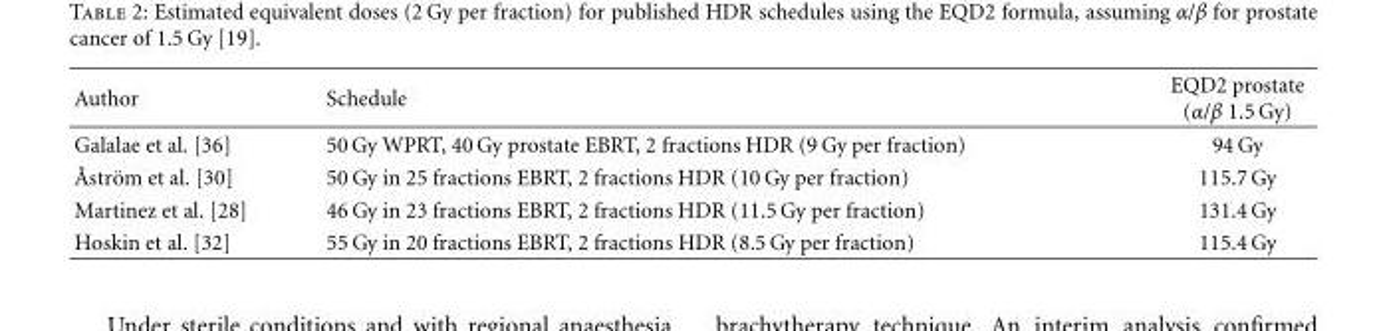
<table><thead><tr><td>Author</td><td>Schedule</td><td>EQD2 prostate (α/β 1.5 Gy)</td></tr></thead><tbody><tr><td>Galalae et al. [36]</td><td>50 Gy WPRT, 40 Gy prostate EBRT, 2 fractions HDR (9 Gy per fraction)</td><td>94 Gy</td></tr><tr><td>˚Astr¨om et al. [30]</td><td>50 Gy in 25 fractions EBRT, 2 fractions HDR (10 Gy per fraction)</td><td>115.7 Gy</td></tr><tr><td>Martinez et al. [28]</td><td>46 Gy in 23 fractions EBRT, 2 fractions HDR (11.5 Gy per fraction)</td><td>131.4 Gy</td></tr><tr><td>Hoskin et al. [32]</td><td>55 Gy in 20 fractions EBRT, 2 fractions HDR (8.5 Gy per fraction)</td><td>115.4 Gy</td></tr></tbody></table>